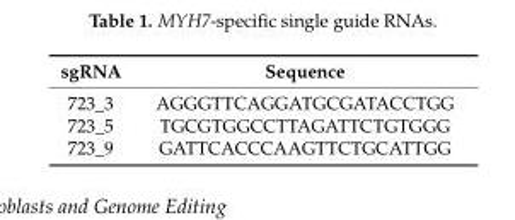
<table><thead><tr><td>sgRNA</td><td>Sequence</td></tr></thead><tbody><tr><td>723_3</td><td>AGGGTTCAGGATGCGATACCTGG</td></tr><tr><td>723_5</td><td>TGCGTGGCCTTAGATTCTGTGGG</td></tr><tr><td>723_9</td><td>GATTCACCCAAGTTCTGCATTGG</td></tr></tbody></table>